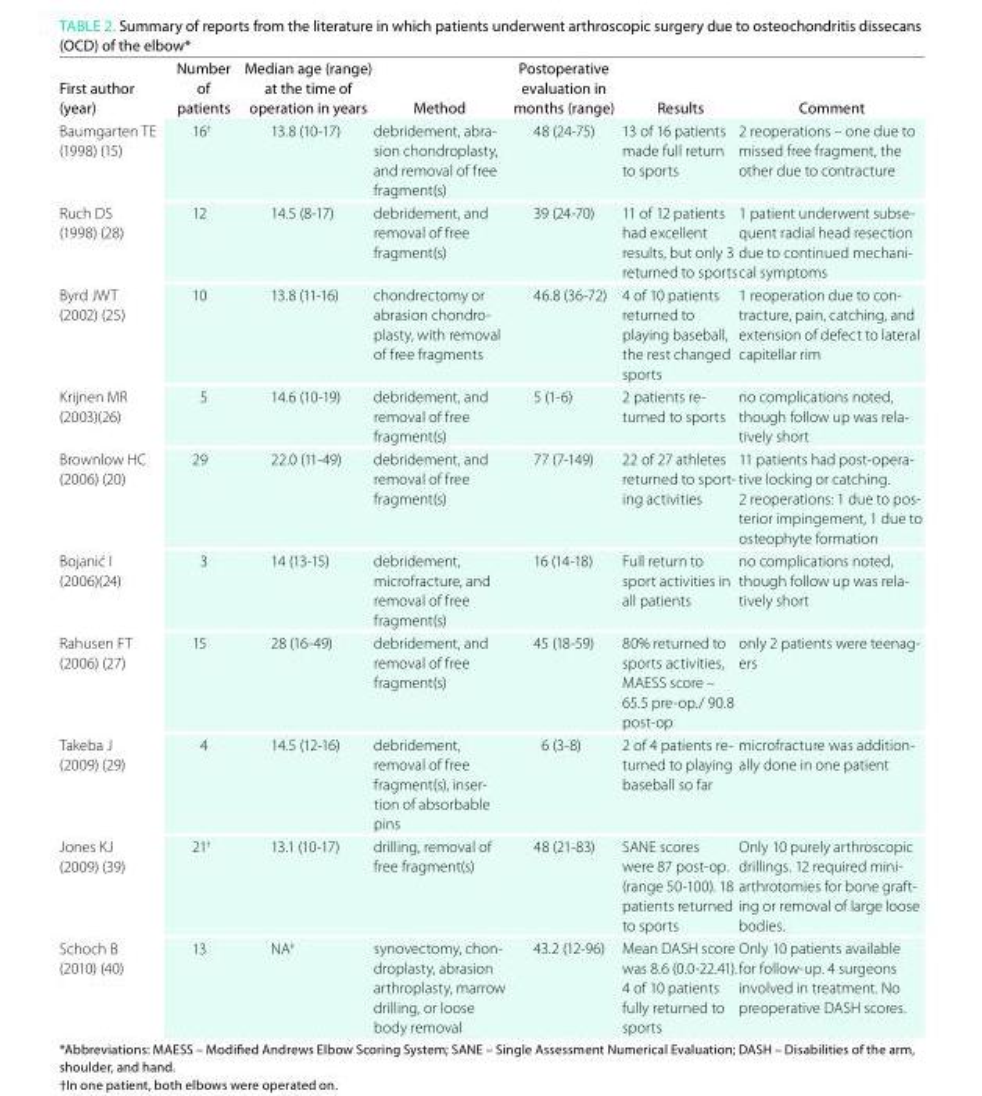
<table><thead><tr><td>First author (year)</td><td>number of patients</td><td>Median age (range) at the time of operation in years</td><td>Method</td><td>Postoperative evaluation in months (range)</td><td>results</td><td>Comment</td></tr></thead><tbody><tr><td>Baumgarten TE (1998) (15)</td><td>16†</td><td>13.8 (10-17)</td><td>debridement, abra- sion chondroplasty, and removal of free fragment(s)</td><td>48 (24-75)</td><td>13 of 16 patients made full return to sports</td><td>2 reoperations – one due to missed free fragment, the other due to contracture</td></tr><tr><td>Ruch DS (1998) (28)</td><td>12</td><td>14.5 (8-17)</td><td>debridement, and removal of free fragment(s)</td><td>39 (24-70)</td><td>11 of 12 patients had excellent results, but only 3 returned to sports</td><td>1 patient underwent subse- quent radial head resection due to continued mechani- cal symptoms</td></tr><tr><td>Byrd JWT (2002) (25)</td><td>10</td><td>13.8 (11-16)</td><td>chondrectomy or abrasion chondro- plasty, with removal of free fragments</td><td>46.8 (36-72)</td><td>4 of 10 patients returned to playing baseball, the rest changed sports</td><td>1 reoperation due to con- tracture, pain, catching, and extension of defect to lateral capitellar rim</td></tr><tr><td>Krijnen MR (2003)(26)</td><td>5</td><td>14.6 (10-19)</td><td>debridement, and removal of free fragment(s)</td><td>5 (1-6)</td><td>2 patients re- turned to sports</td><td>no complications noted, though follow up was rela- tively short</td></tr><tr><td>Brownlow HC (2006) (20)</td><td>29</td><td>22.0 (11-49)</td><td>debridement, and removal of free fragment(s)</td><td>77 (7-149)</td><td>22 of 27 athletes returned to sport- ing activities</td><td>11 patients had post-opera- tive locking or catching. 2 reoperations: 1 due to pos- terior impingement, 1 due to osteophyte formation</td></tr><tr><td>Bojanić I (2006)(24)</td><td>3</td><td>14 (13-15)</td><td>debridement, microfracture, and removal of free fragment(s)</td><td>16 (14-18)</td><td>Full return to sport activities in all patients</td><td>no complications noted, though follow up was rela- tively short</td></tr><tr><td>Rahusen FT (2006) (27)</td><td>15</td><td>28 (16-49)</td><td>debridement, and removal of free fragment(s)</td><td>45 (18-59)</td><td>80% returned to sports activities, MAESS score – 65.5 pre-op./ 90.8 post-op</td><td>only 2 patients were teenag- ers</td></tr><tr><td>Takeba J (2009) (29)</td><td>4</td><td>14.5 (12-16)</td><td>debridement, removal of free fragment(s), inser- tion of absorbable pins</td><td>6 (3-8)</td><td>2 of 4 patients re- turned to playing baseball so far</td><td>microfracture was addition- ally done in one patient</td></tr><tr><td>Jones KJ (2009) (39)</td><td>21†</td><td>13.1 (10-17)</td><td>drilling, removal of free fragment(s)</td><td>48 (21-83)</td><td>SANE scores were 87 post-op. (range 50-100). 18 patients returned to sports</td><td>Only 10 purely arthroscopic drillings. 12 required mini- arthrotomies for bone graft- ing or removal of large loose bodies.</td></tr><tr><td>Schoch B (2010) (40)</td><td>13</td><td>NA‡</td><td>synovectomy, chon- droplasty, abrasion arthroplasty, marrow drilling, or loose body removal</td><td>43.2 (12-96)</td><td>Mean DASH score was 8.6 (0.0-22.41). 4 of 10 patients fully returned to sports</td><td>Only 10 patients available for follow-up. 4 surgeons involved in treatment. No preoperative DASH scores.</td></tr></tbody></table>